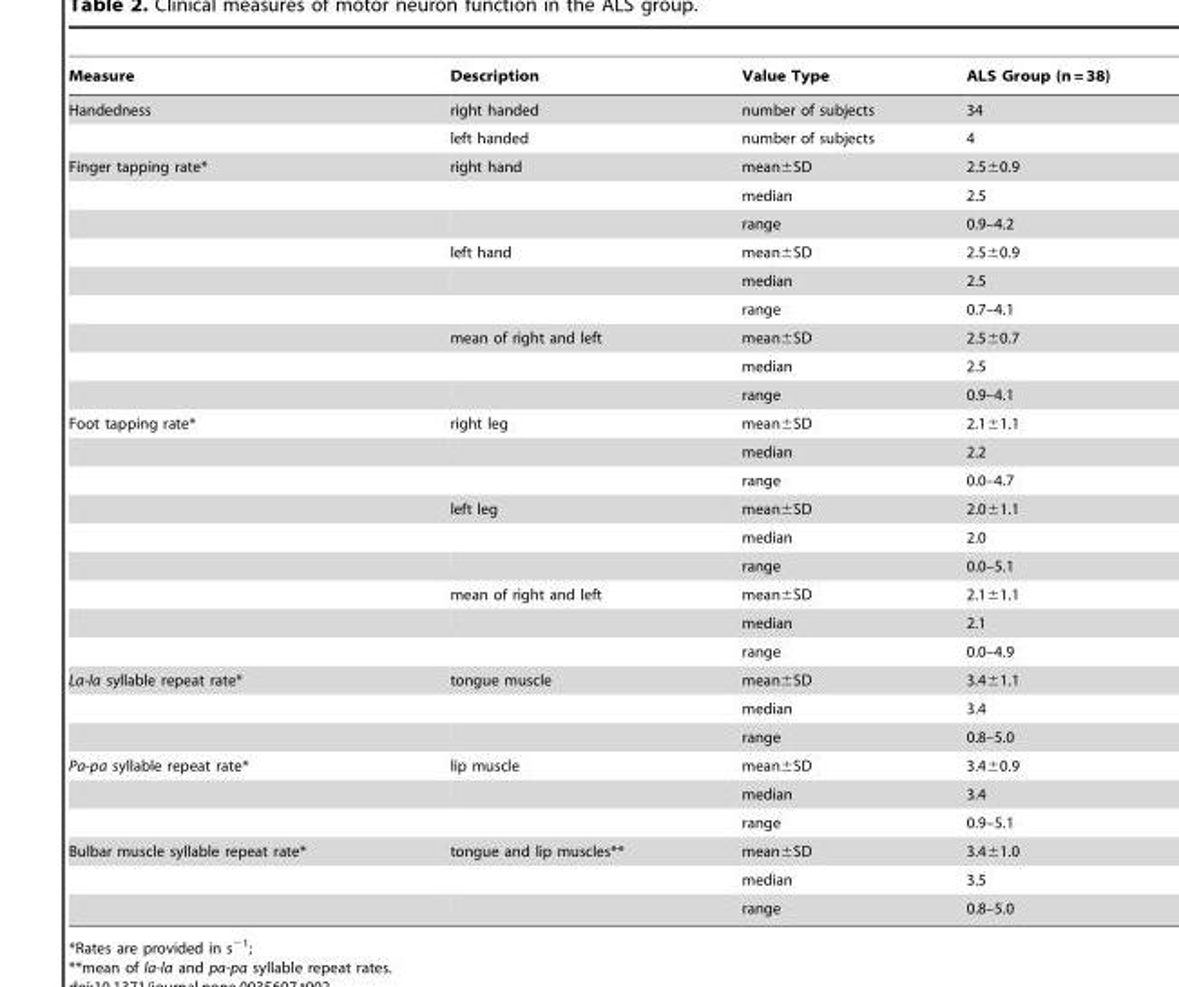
<table><thead><tr><td>Measure</td><td>Description</td><td>Value Type</td><td>ALS Group (n = 38)</td></tr></thead><tbody><tr><td rowspan="2">Handedness</td><td>right handed</td><td>number of subjects</td><td>34</td></tr><tr><td>left handed</td><td>number of subjects</td><td>4</td></tr><tr><td rowspan="9">Finger tapping rate*</td><td>right hand</td><td>mean±SD</td><td>2.5±0.9</td></tr><tr><td></td><td>median</td><td>2.5</td></tr><tr><td></td><td>range</td><td>0.9–4.2</td></tr><tr><td>left hand</td><td>mean±SD</td><td>2.5±0.9</td></tr><tr><td></td><td>median</td><td>2.5</td></tr><tr><td></td><td>range</td><td>0.7–4.1</td></tr><tr><td>mean of right and left</td><td>mean±SD</td><td>2.5±0.7</td></tr><tr><td></td><td>median</td><td>2.5</td></tr><tr><td></td><td>range</td><td>0.9–4.1</td></tr><tr><td rowspan="9">Foot tapping rate*</td><td>right leg</td><td>mean±SD</td><td>2.1±1.1</td></tr><tr><td></td><td>median</td><td>2.2</td></tr><tr><td></td><td>range</td><td>0.0–4.7</td></tr><tr><td>left leg</td><td>mean±SD</td><td>2.0±1.1</td></tr><tr><td></td><td>median</td><td>2.0</td></tr><tr><td></td><td>range</td><td>0.0–5.1</td></tr><tr><td>mean of right and left</td><td>mean±SD</td><td>2.1±1.1</td></tr><tr><td></td><td>median</td><td>2.1</td></tr><tr><td></td><td>range</td><td>0.0–4.9</td></tr><tr><td rowspan="3">La-la syllable repeat rate*</td><td>tongue muscle</td><td>mean±SD</td><td>3.4±1.1</td></tr><tr><td></td><td>median</td><td>3.4</td></tr><tr><td></td><td>range</td><td>0.8–5.0</td></tr><tr><td rowspan="3">Pa-pa syllable repeat rate*</td><td>lip muscle</td><td>mean±SD</td><td>3.4±0.9</td></tr><tr><td></td><td>median</td><td>3.4</td></tr><tr><td></td><td>range</td><td>0.9–5.1</td></tr><tr><td rowspan="3">Bulbar muscle syllable repeat rate*</td><td>tongue and lip muscles**</td><td>mean±SD</td><td>3.4±1.0</td></tr><tr><td></td><td>median</td><td>3.5</td></tr><tr><td></td><td>range</td><td>0.8–5.0</td></tr></tbody></table>